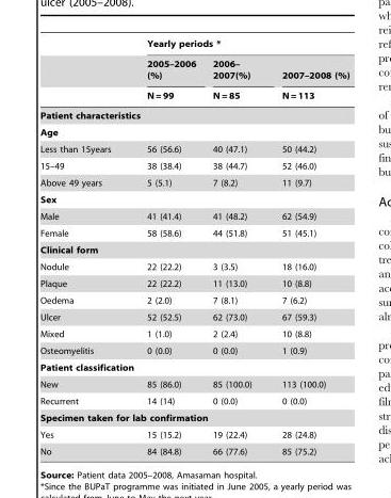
<table><thead><tr><td rowspan="3"></td><td colspan="3">Yearly periods *</td></tr><tr><td rowspan="2">2005–2006 (%) N = 99</td><td rowspan="2">2006– 2007(%) N = 85</td><td rowspan="2">2007–2008 (%) N = 113</td></tr><tr></tr></thead><tbody><tr><td colspan="4">Patient characteristics</td></tr><tr><td colspan="4">Age</td></tr><tr><td>Less than 15years</td><td>56 (56.6)</td><td>40 (47.1)</td><td>50 (44.2)</td></tr><tr><td>15–49</td><td>38 (38.4)</td><td>38 (44.7)</td><td>52 (46.0)</td></tr><tr><td>Above 49 years</td><td>5 (5.1)</td><td>7 (8.2)</td><td>11 (9.7)</td></tr><tr><td colspan="4">Sex</td></tr><tr><td>Male</td><td>41 (41.4)</td><td>41 (48.2)</td><td>62 (54.9)</td></tr><tr><td>Female</td><td>58 (58.6)</td><td>44 (51.8)</td><td>51 (45.1)</td></tr><tr><td colspan="4">Clinical form</td></tr><tr><td>Nodule</td><td>22 (22.2)</td><td>3 (3.5)</td><td>18 (16.0)</td></tr><tr><td>Plaque</td><td>22 (22.2)</td><td>11 (13.0)</td><td>10 (8.8)</td></tr><tr><td>Oedema</td><td>2 (2.0)</td><td>7 (8.1)</td><td>7 (6.2)</td></tr><tr><td>Ulcer</td><td>52 (52.5)</td><td>62 (73.0)</td><td>67 (59.3)</td></tr><tr><td>Mixed</td><td>1 (1.0)</td><td>2 (2.4)</td><td>10 (8.8)</td></tr><tr><td>Osteomyelitis</td><td>0 (0.0)</td><td>0 (0.0)</td><td>1 (0.9)</td></tr><tr><td colspan="4">Patient classification</td></tr><tr><td>New</td><td>85 (86.0)</td><td>85 (100.0)</td><td>113 (100.0)</td></tr><tr><td>Recurrent</td><td>14 (14)</td><td>0 (0.0)</td><td>0 (0.0)</td></tr><tr><td colspan="4">Specimen taken for lab confirmation</td></tr><tr><td>Yes</td><td>15 (15.2)</td><td>19 (22.4)</td><td>28 (24.8)</td></tr><tr><td>No</td><td>84 (84.8)</td><td>66 (77.6)</td><td>85 (75.2)</td></tr></tbody></table>